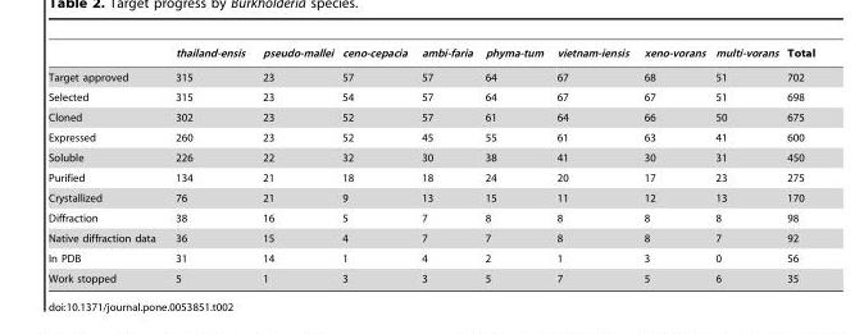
<table><thead><tr><td></td><td>thailand-ensis</td><td>pseudo-mallei</td><td>ceno-cepacia</td><td>ambi-faria</td><td>phyma-tum</td><td>vietnam-iensis</td><td>xeno-vorans</td><td>multi-vorans</td><td>Total</td></tr></thead><tbody><tr><td>Target approved</td><td>315</td><td>23</td><td>57</td><td>57</td><td>64</td><td>67</td><td>68</td><td>51</td><td>702</td></tr><tr><td>Selected</td><td>315</td><td>23</td><td>54</td><td>57</td><td>64</td><td>67</td><td>67</td><td>51</td><td>698</td></tr><tr><td>Cloned</td><td>302</td><td>23</td><td>52</td><td>57</td><td>61</td><td>64</td><td>66</td><td>50</td><td>675</td></tr><tr><td>Expressed</td><td>260</td><td>23</td><td>52</td><td>45</td><td>55</td><td>61</td><td>63</td><td>41</td><td>600</td></tr><tr><td>Soluble</td><td>226</td><td>22</td><td>32</td><td>30</td><td>38</td><td>41</td><td>30</td><td>31</td><td>450</td></tr><tr><td>Purified</td><td>134</td><td>21</td><td>18</td><td>18</td><td>24</td><td>20</td><td>17</td><td>23</td><td>275</td></tr><tr><td>Crystallized</td><td>76</td><td>21</td><td>9</td><td>13</td><td>15</td><td>11</td><td>12</td><td>13</td><td>170</td></tr><tr><td>Diffraction</td><td>38</td><td>16</td><td>5</td><td>7</td><td>8</td><td>8</td><td>8</td><td>8</td><td>98</td></tr><tr><td>Native diffraction data</td><td>36</td><td>15</td><td>4</td><td>7</td><td>7</td><td>8</td><td>8</td><td>7</td><td>92</td></tr><tr><td>In PDB</td><td>31</td><td>14</td><td>1</td><td>4</td><td>2</td><td>1</td><td>3</td><td>0</td><td>56</td></tr><tr><td>Work stopped</td><td>5</td><td>1</td><td>3</td><td>3</td><td>5</td><td>7</td><td>5</td><td>6</td><td>35</td></tr></tbody></table>